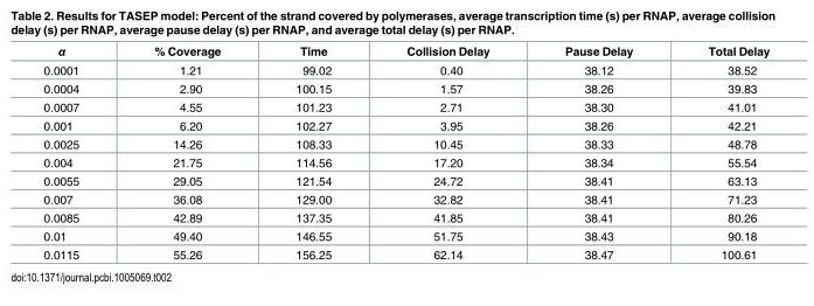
<table><thead><tr><td>α</td><td>% Coverage</td><td>Time</td><td>Collision Delay</td><td>Pause Delay</td><td>Total Delay</td></tr></thead><tbody><tr><td>0.0001</td><td>1.21</td><td>99.02</td><td>0.40</td><td>38.12</td><td>38.52</td></tr><tr><td>0.0004</td><td>2.90</td><td>100.15</td><td>1.57</td><td>38.26</td><td>39.83</td></tr><tr><td>0.0007</td><td>4.55</td><td>101.23</td><td>2.71</td><td>38.30</td><td>41.01</td></tr><tr><td>0.001</td><td>6.20</td><td>102.27</td><td>3.95</td><td>38.26</td><td>42.21</td></tr><tr><td>0.0025</td><td>14.26</td><td>108.33</td><td>10.45</td><td>38.33</td><td>48.78</td></tr><tr><td>0.004</td><td>21.75</td><td>114.56</td><td>17.20</td><td>38.34</td><td>55.54</td></tr><tr><td>0.0055</td><td>29.05</td><td>121.54</td><td>24.72</td><td>38.41</td><td>63.13</td></tr><tr><td>0.007</td><td>36.08</td><td>129.00</td><td>32.82</td><td>38.41</td><td>71.23</td></tr><tr><td>0.0085</td><td>42.89</td><td>137.35</td><td>41.85</td><td>38.41</td><td>80.26</td></tr><tr><td>0.01</td><td>49.40</td><td>146.55</td><td>51.75</td><td>38.43</td><td>90.18</td></tr><tr><td>0.0115</td><td>55.26</td><td>156.25</td><td>62.14</td><td>38.47</td><td>100.61</td></tr></tbody></table>